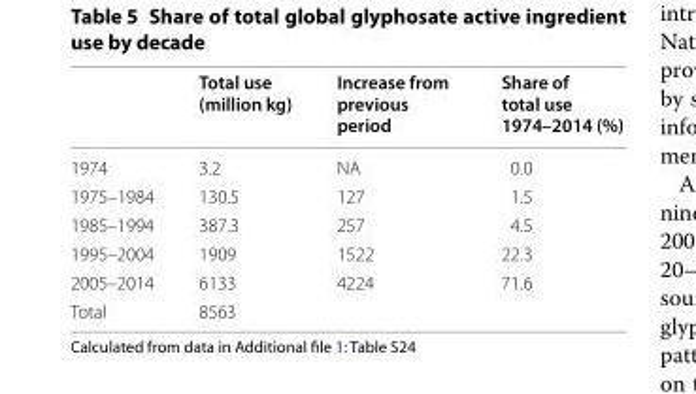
<table><thead><tr><td></td><td>Total use (million kg)</td><td>Increase from previous period</td><td>Share of total use 1974–2014 (%)</td></tr></thead><tbody><tr><td>1974</td><td>3.2</td><td>NA</td><td>0.0</td></tr><tr><td>1975–1984</td><td>130.5</td><td>127</td><td>1.5</td></tr><tr><td>1985–1994</td><td>387.3</td><td>257</td><td>4.5</td></tr><tr><td>1995–2004</td><td>1909</td><td>1522</td><td>22.3</td></tr><tr><td>2005–2014</td><td>6133</td><td>4224</td><td>71.6</td></tr><tr><td>Total</td><td>8563</td><td></td><td></td></tr></tbody></table>